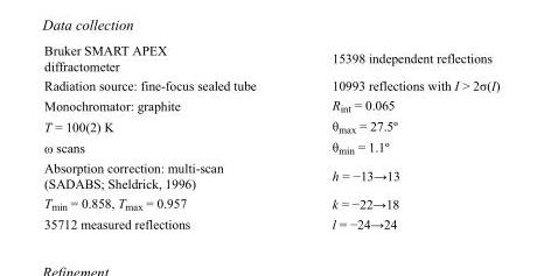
<table><tbody><tr><td>Bruker SMART APEX diffractometer</td><td>15398 independent reflections</td></tr><tr><td>Radiation source: fine-focus sealed tube</td><td>10993 reflections with I &gt; 2σ(I)</td></tr><tr><td>Monochromator: graphite</td><td>R<sub>int</sub> = 0.065</td></tr><tr><td>T = 100(2) K</td><td>θ<sub>max</sub> = 27.5º</td></tr><tr><td>ω scans</td><td>θ<sub>min</sub> = 1.1º</td></tr><tr><td>Absorption correction: multi-scan (SADABS; Sheldrick, 1996)</td><td>h = −13→13</td></tr><tr><td>T<sub>min</sub> = 0.858, T<sub>max</sub> = 0.957</td><td>k = −22→18</td></tr><tr><td>35712 measured reflections</td><td>l = −24→24</td></tr></tbody></table>